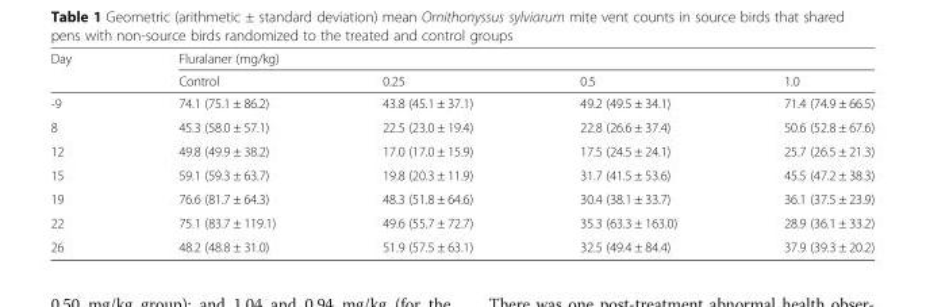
<table><thead><tr><td rowspan="2">Day</td><td colspan="4">Fluralaner (mg/kg)</td></tr><tr><td>Control</td><td>0.25</td><td>0.5</td><td>1.0</td></tr></thead><tbody><tr><td>-9</td><td>74.1 (75.1 ± 86.2)</td><td>43.8 (45.1 ± 37.1)</td><td>49.2 (49.5 ± 34.1)</td><td>71.4 (74.9 ± 66.5)</td></tr><tr><td>8</td><td>45.3 (58.0 ± 57.1)</td><td>22.5 (23.0 ± 19.4)</td><td>22.8 (26.6 ± 37.4)</td><td>50.6 (52.8 ± 67.6)</td></tr><tr><td>12</td><td>49.8 (49.9 ± 38.2)</td><td>17.0 (17.0 ± 15.9)</td><td>17.5 (24.5 ± 24.1)</td><td>25.7 (26.5 ± 21.3)</td></tr><tr><td>15</td><td>59.1 (59.3 ± 63.7)</td><td>19.8 (20.3 ± 11.9)</td><td>31.7 (41.5 ± 53.6)</td><td>45.5 (47.2 ± 38.3)</td></tr><tr><td>19</td><td>76.6 (81.7 ± 64.3)</td><td>48.3 (51.8 ± 64.6)</td><td>30.4 (38.1 ± 33.7)</td><td>36.1 (37.5 ± 23.9)</td></tr><tr><td>22</td><td>75.1 (83.7 ± 119.1)</td><td>49.6 (55.7 ± 72.7)</td><td>35.3 (63.3 ± 163.0)</td><td>28.9 (36.1 ± 33.2)</td></tr><tr><td>26</td><td>48.2 (48.8 ± 31.0)</td><td>51.9 (57.5 ± 63.1)</td><td>32.5 (49.4 ± 84.4)</td><td>37.9 (39.3 ± 20.2)</td></tr></tbody></table>